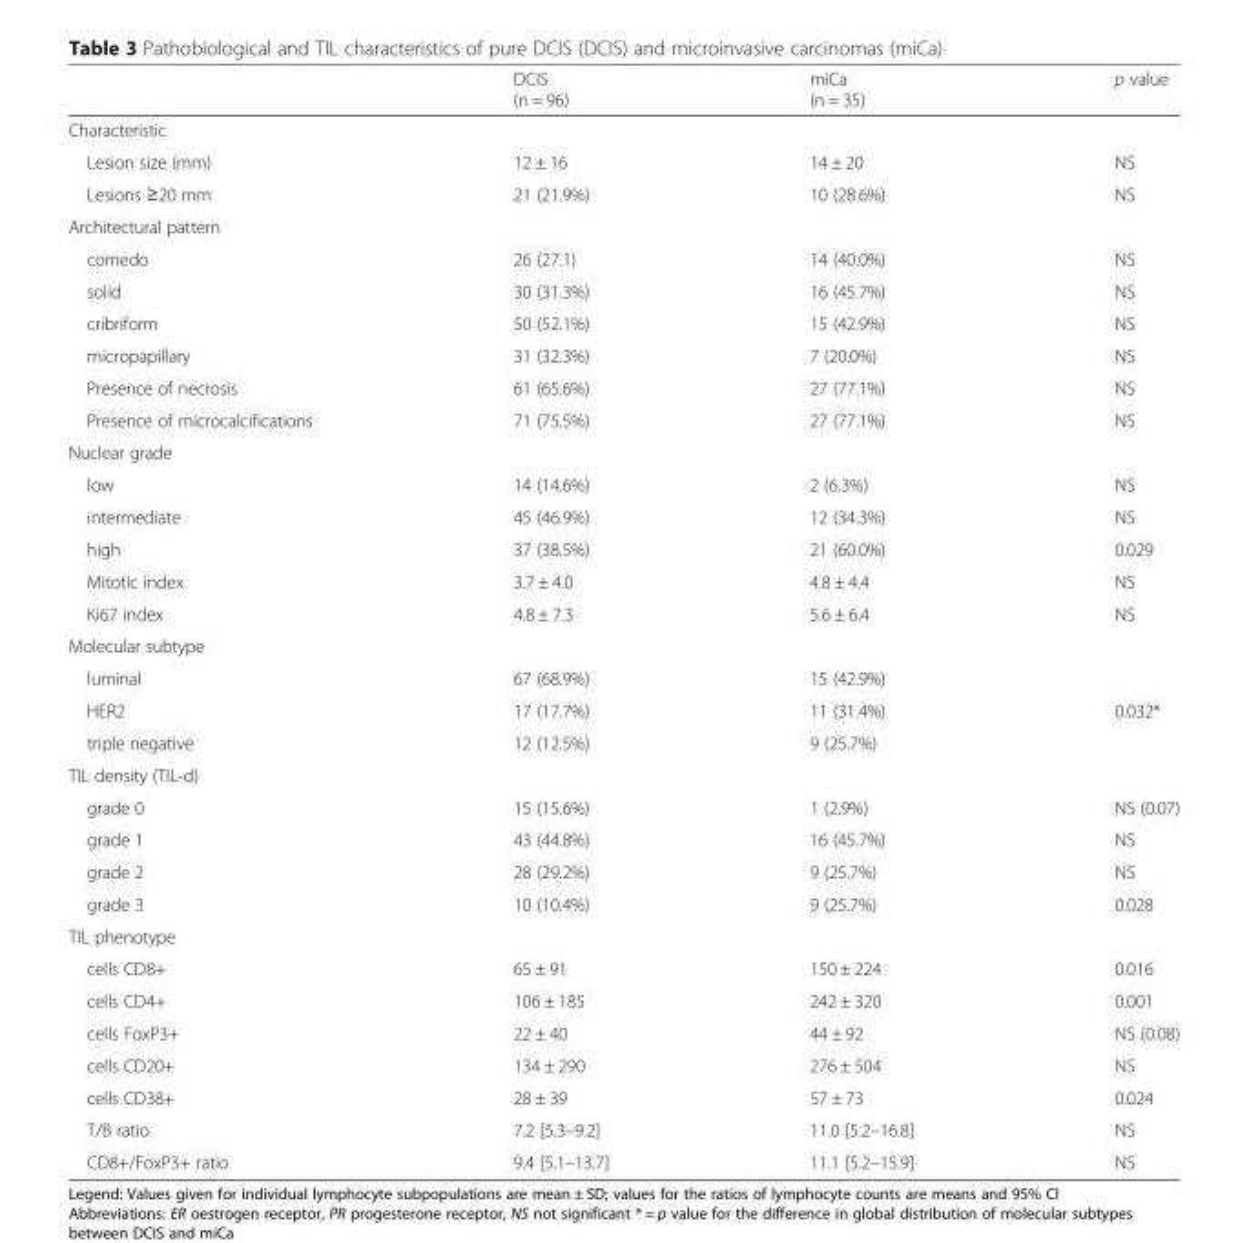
<table><thead><tr><td></td><td>DCIS (n = 96)</td><td>miCa (n = 35)</td><td>p value</td></tr></thead><tbody><tr><td colspan="4">Characteristic</td></tr><tr><td>Lesion size (mm)</td><td>12 ± 16</td><td>14 ± 20</td><td>NS</td></tr><tr><td>Lesions ≥20 mm</td><td>21 (21.9%)</td><td>10 (28.6%)</td><td>NS</td></tr><tr><td colspan="4">Architectural pattern</td></tr><tr><td>comedo</td><td>26 (27.1)</td><td>14 (40.0%)</td><td>NS</td></tr><tr><td>solid</td><td>30 (31.3%)</td><td>16 (45.7%)</td><td>NS</td></tr><tr><td>cribriform</td><td>50 (52.1%)</td><td>15 (42.9%)</td><td>NS</td></tr><tr><td>micropapillary</td><td>31 (32.3%)</td><td>7 (20.0%)</td><td>NS</td></tr><tr><td>Presence of necrosis</td><td>61 (65.6%)</td><td>27 (77.1%)</td><td>NS</td></tr><tr><td>Presence of microcalcifications</td><td>71 (75.5%)</td><td>27 (77.1%)</td><td>NS</td></tr><tr><td colspan="4">Nuclear grade</td></tr><tr><td>low</td><td>14 (14.6%)</td><td>2 (6.3%)</td><td>NS</td></tr><tr><td>intermediate</td><td>45 (46.9%)</td><td>12 (34.3%)</td><td>NS</td></tr><tr><td>high</td><td>37 (38.5%)</td><td>21 (60.0%)</td><td>0.029</td></tr><tr><td>Mitotic index</td><td>3.7 ± 4.0</td><td>4.8 ± 4.4</td><td>NS</td></tr><tr><td>Ki67 index</td><td>4.8 ± 7.3</td><td>5.6 ± 6.4</td><td>NS</td></tr><tr><td colspan="4">Molecular subtype</td></tr><tr><td>luminal</td><td>67 (68.9%)</td><td>15 (42.9%)</td><td></td></tr><tr><td>HER2</td><td>17 (17.7%)</td><td>11 (31.4%)</td><td>0.032*</td></tr><tr><td>triple negative</td><td>12 (12.5%)</td><td>9 (25.7%)</td><td></td></tr><tr><td colspan="4">TIL density (TIL-d)</td></tr><tr><td>grade 0</td><td>15 (15.6%)</td><td>1 (2.9%)</td><td>NS (0.07)</td></tr><tr><td>grade 1</td><td>43 (44.8%)</td><td>16 (45.7%)</td><td>NS</td></tr><tr><td>grade 2</td><td>28 (29.2%)</td><td>9 (25.7%)</td><td>NS</td></tr><tr><td>grade 3</td><td>10 (10.4%)</td><td>9 (25.7%)</td><td>0.028</td></tr><tr><td colspan="4">TIL phenotype</td></tr><tr><td>cells CD8+</td><td>65 ± 91</td><td>150 ± 224</td><td>0.016</td></tr><tr><td>cells CD4+</td><td>106 ± 185</td><td>242 ± 320</td><td>0.001</td></tr><tr><td>cells FoxP3+</td><td>22 ± 40</td><td>44 ± 92</td><td>NS (0.08)</td></tr><tr><td>cells CD20+</td><td>134 ± 290</td><td>276 ± 504</td><td>NS</td></tr><tr><td>cells CD38+</td><td>28 ± 39</td><td>57 ± 73</td><td>0.024</td></tr><tr><td>T/B ratio</td><td>7.2 [5.3–9.2]</td><td>11.0 [5.2–16.8]</td><td>NS</td></tr><tr><td>CD8+/FoxP3+ ratio</td><td>9.4 [5.1–13.7]</td><td>11.1 [5.2–15.9]</td><td>NS</td></tr></tbody></table>